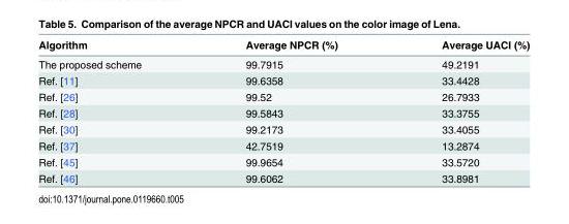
<table><thead><tr><td>Algorithm</td><td>Average NPCR (%)</td><td>Average UACI (%)</td></tr></thead><tbody><tr><td>The proposed scheme</td><td>99.7915</td><td>49.2191</td></tr><tr><td>Ref. [11]</td><td>99.6358</td><td>33.4428</td></tr><tr><td>Ref. [26]</td><td>99.52</td><td>26.7933</td></tr><tr><td>Ref. [28]</td><td>99.5843</td><td>33.3755</td></tr><tr><td>Ref. [30]</td><td>99.2173</td><td>33.4055</td></tr><tr><td>Ref. [37]</td><td>42.7519</td><td>13.2874</td></tr><tr><td>Ref. [45]</td><td>99.9654</td><td>33.5720</td></tr><tr><td>Ref. [46]</td><td>99.6062</td><td>33.8981</td></tr></tbody></table>